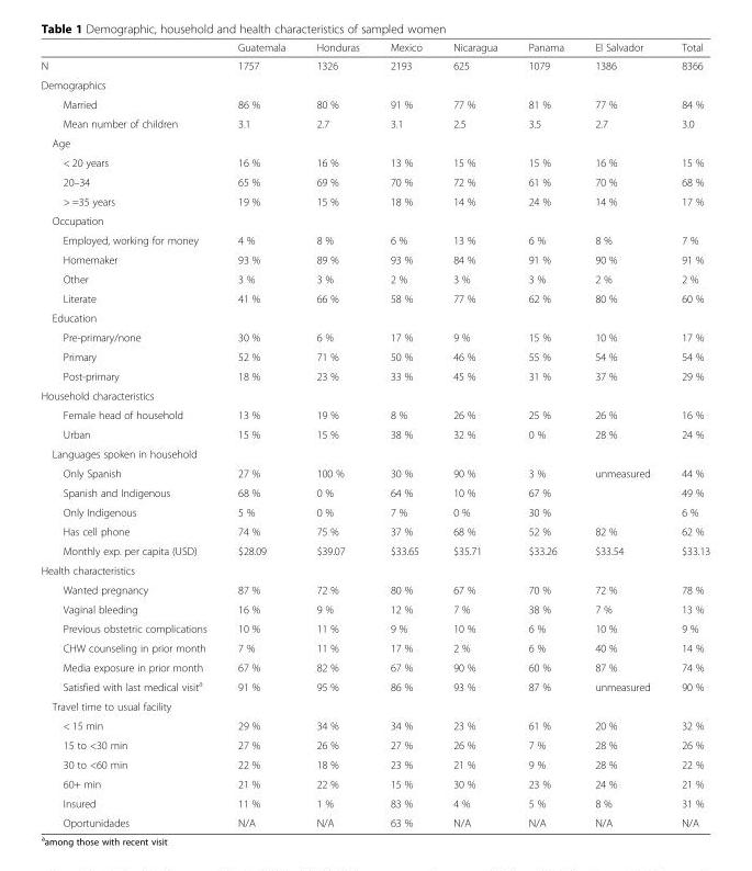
<table><thead><tr><td></td><td>Guatemala</td><td>Honduras</td><td>Mexico</td><td>Nicaragua</td><td>Panama</td><td>El Salvador</td><td>Total</td></tr></thead><tbody><tr><td>N</td><td>1757</td><td>1326</td><td>2193</td><td>625</td><td>1079</td><td>1386</td><td>8366</td></tr><tr><td colspan="8">Demographics</td></tr><tr><td>Married</td><td>86 %</td><td>80 %</td><td>91 %</td><td>77 %</td><td>81 %</td><td>77 %</td><td>84 %</td></tr><tr><td>Mean number of children</td><td>3.1</td><td>2.7</td><td>3.1</td><td>2.5</td><td>3.5</td><td>2.7</td><td>3.0</td></tr><tr><td colspan="8">Age</td></tr><tr><td>&lt; 20 years</td><td>16 %</td><td>16 %</td><td>13 %</td><td>15 %</td><td>15 %</td><td>16 %</td><td>15 %</td></tr><tr><td>20–34</td><td>65 %</td><td>69 %</td><td>70 %</td><td>72 %</td><td>61 %</td><td>70 %</td><td>68 %</td></tr><tr><td>&gt; =35 years</td><td>19 %</td><td>15 %</td><td>18 %</td><td>14 %</td><td>24 %</td><td>14 %</td><td>17 %</td></tr><tr><td colspan="8">Occupation</td></tr><tr><td>Employed, working for money</td><td>4 %</td><td>8 %</td><td>6 %</td><td>13 %</td><td>6 %</td><td>8 %</td><td>7 %</td></tr><tr><td>Homemaker</td><td>93 %</td><td>89 %</td><td>93 %</td><td>84 %</td><td>91 %</td><td>90 %</td><td>91 %</td></tr><tr><td>Other</td><td>3 %</td><td>3 %</td><td>2 %</td><td>3 %</td><td>3 %</td><td>2 %</td><td>2 %</td></tr><tr><td>Literate</td><td>41 %</td><td>66 %</td><td>58 %</td><td>77 %</td><td>62 %</td><td>80 %</td><td>60 %</td></tr><tr><td colspan="8">Education</td></tr><tr><td>Pre-primary/none</td><td>30 %</td><td>6 %</td><td>17 %</td><td>9 %</td><td>15 %</td><td>10 %</td><td>17 %</td></tr><tr><td>Primary</td><td>52 %</td><td>71 %</td><td>50 %</td><td>46 %</td><td>55 %</td><td>54 %</td><td>54 %</td></tr><tr><td>Post-primary</td><td>18 %</td><td>23 %</td><td>33 %</td><td>45 %</td><td>31 %</td><td>37 %</td><td>29 %</td></tr><tr><td colspan="8">Household characteristics</td></tr><tr><td>Female head of household</td><td>13 %</td><td>19 %</td><td>8 %</td><td>26 %</td><td>25 %</td><td>26 %</td><td>16 %</td></tr><tr><td>Urban</td><td>15 %</td><td>15 %</td><td>38 %</td><td>32 %</td><td>0 %</td><td>28 %</td><td>24 %</td></tr><tr><td colspan="8">Languages spoken in household</td></tr><tr><td>Only Spanish</td><td>27 %</td><td>100 %</td><td>30 %</td><td>90 %</td><td>3 %</td><td rowspan="3">unmeasured</td><td>44 %</td></tr><tr><td>Spanish and Indigenous</td><td>68 %</td><td>0 %</td><td>64 %</td><td>10 %</td><td>67 %</td><td>49 %</td></tr><tr><td>Only Indigenous</td><td>5 %</td><td>0 %</td><td>7 %</td><td>0 %</td><td>30 %</td><td>6 %</td></tr><tr><td>Has cell phone</td><td>74 %</td><td>75 %</td><td>37 %</td><td>68 %</td><td>52 %</td><td>82 %</td><td>62 %</td></tr><tr><td>Monthly exp. per capita (USD)</td><td>$28.09</td><td>$39.07</td><td>$33.65</td><td>$35.71</td><td>$33.26</td><td>$33.54</td><td>$33.13</td></tr><tr><td colspan="8">Health characteristics</td></tr><tr><td>Wanted pregnancy</td><td>87 %</td><td>72 %</td><td>80 %</td><td>67 %</td><td>70 %</td><td>72 %</td><td>78 %</td></tr><tr><td>Vaginal bleeding</td><td>16 %</td><td>9 %</td><td>12 %</td><td>7 %</td><td>38 %</td><td>7 %</td><td>13 %</td></tr><tr><td>Previous obstetric complications</td><td>10 %</td><td>11 %</td><td>9 %</td><td>10 %</td><td>6 %</td><td>10 %</td><td>9 %</td></tr><tr><td>CHW counseling in prior month</td><td>7 %</td><td>11 %</td><td>17 %</td><td>2 %</td><td>6 %</td><td>40 %</td><td>14 %</td></tr><tr><td>Media exposure in prior month</td><td>67 %</td><td>82 %</td><td>67 %</td><td>90 %</td><td>60 %</td><td>87 %</td><td>74 %</td></tr><tr><td>Satisfied with last medical visit<sup>a</sup></td><td>91 %</td><td>95 %</td><td>86 %</td><td>93 %</td><td>87 %</td><td>unmeasured</td><td>90 %</td></tr><tr><td colspan="8">Travel time to usual facility</td></tr><tr><td>&lt; 15 min</td><td>29 %</td><td>34 %</td><td>34 %</td><td>23 %</td><td>61 %</td><td>20 %</td><td>32 %</td></tr><tr><td>15 to &lt;30 min</td><td>27 %</td><td>26 %</td><td>27 %</td><td>26 %</td><td>7 %</td><td>28 %</td><td>26 %</td></tr><tr><td>30 to &lt;60 min</td><td>22 %</td><td>18 %</td><td>23 %</td><td>21 %</td><td>9 %</td><td>28 %</td><td>22 %</td></tr><tr><td>60+ min</td><td>21 %</td><td>22 %</td><td>15 %</td><td>30 %</td><td>23 %</td><td>24 %</td><td>21 %</td></tr><tr><td>Insured</td><td>11 %</td><td>1 %</td><td>83 %</td><td>4 %</td><td>5 %</td><td>8 %</td><td>31 %</td></tr><tr><td>Oportunidades</td><td>N/A</td><td>N/A</td><td>63 %</td><td>N/A</td><td>N/A</td><td>N/A</td><td>N/A</td></tr></tbody></table>